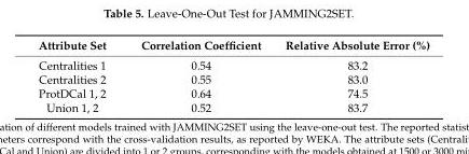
<table><thead><tr><td>Attribute Set</td><td>Correlation Coefficient</td><td>Relative Absolute Error (%)</td></tr></thead><tbody><tr><td>Centralities 1</td><td>0.54</td><td>83.2</td></tr><tr><td>Centralities 2</td><td>0.55</td><td>83.0</td></tr><tr><td>ProtDCal 1, 2</td><td>0.64</td><td>74.5</td></tr><tr><td>Union 1, 2</td><td>0.52</td><td>83.7</td></tr></tbody></table>